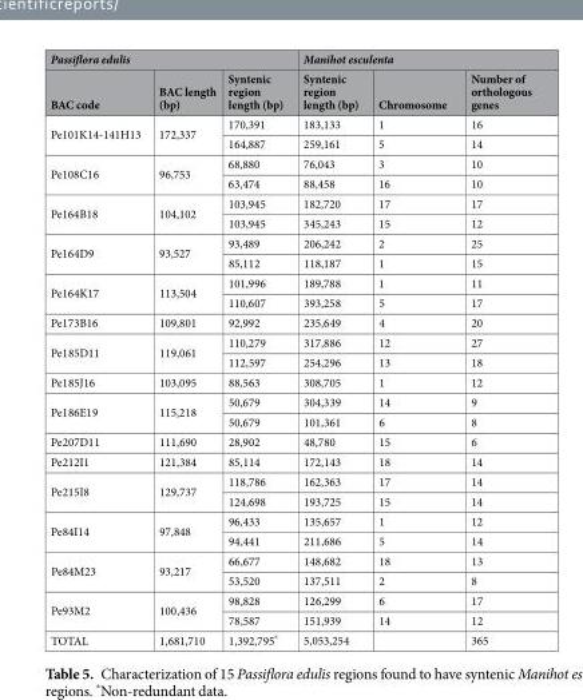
<table><thead><tr><td colspan="3">Passiflora edulis</td><td colspan="3">Manihot esculenta</td></tr><tr><td>BAC code</td><td>BAC length (bp)</td><td>Syntenic region length (bp)</td><td>Syntenic region length (bp)</td><td>Chromosome</td><td>Number of orthologous genes</td></tr></thead><tbody><tr><td rowspan="2">Pe101K14-141H13</td><td rowspan="2">172,337</td><td>170,391</td><td>183,133</td><td>1</td><td>16</td></tr><tr><td>164,887</td><td>259,161</td><td>5</td><td>14</td></tr><tr><td rowspan="2">Pe108C16</td><td rowspan="2">96,753</td><td>68,880</td><td>76,043</td><td>3</td><td>10</td></tr><tr><td>63,474</td><td>88,458</td><td>16</td><td>10</td></tr><tr><td rowspan="2">Pe164B18</td><td rowspan="2">104,102</td><td>103,945</td><td>182,720</td><td>17</td><td>17</td></tr><tr><td>103,945</td><td>345,243</td><td>15</td><td>12</td></tr><tr><td rowspan="2">Pe164D9</td><td rowspan="2">93,527</td><td>93,489</td><td>206,242</td><td>2</td><td>25</td></tr><tr><td>85,112</td><td>118,187</td><td>1</td><td>15</td></tr><tr><td rowspan="2">Pe164K17</td><td rowspan="2">113,504</td><td>101,996</td><td>189,788</td><td>1</td><td>11</td></tr><tr><td>110,607</td><td>393,258</td><td>5</td><td>17</td></tr><tr><td>Pe173B16</td><td>109,801</td><td>92,992</td><td>235,649</td><td>4</td><td>20</td></tr><tr><td rowspan="2">Pe185D11</td><td rowspan="2">119,061</td><td>110,279</td><td>317,886</td><td>12</td><td>27</td></tr><tr><td>112,597</td><td>254,296</td><td>13</td><td>18</td></tr><tr><td>Pe185J16</td><td>103,095</td><td>88,563</td><td>308,705</td><td>1</td><td>12</td></tr><tr><td rowspan="2">Pe186E19</td><td rowspan="2">115,218</td><td>50,679</td><td>304,339</td><td>14</td><td>9</td></tr><tr><td>50,679</td><td>101,361</td><td>6</td><td>8</td></tr><tr><td>Pe207D11</td><td>111,690</td><td>28,902</td><td>48,780</td><td>15</td><td>6</td></tr><tr><td>Pe212I1</td><td>121,384</td><td>85,114</td><td>172,143</td><td>18</td><td>14</td></tr><tr><td rowspan="2">Pe215I8</td><td rowspan="2">129,737</td><td>118,786</td><td>162,363</td><td>17</td><td>14</td></tr><tr><td>124,698</td><td>193,725</td><td>15</td><td>14</td></tr><tr><td rowspan="2">Pe84I14</td><td rowspan="2">97,848</td><td>96,433</td><td>135,657</td><td>1</td><td>12</td></tr><tr><td>94,441</td><td>211,686</td><td>5</td><td>14</td></tr><tr><td rowspan="2">Pe84M23</td><td rowspan="2">93,217</td><td>66,677</td><td>148,682</td><td>18</td><td>13</td></tr><tr><td>53,520</td><td>137,511</td><td>2</td><td>8</td></tr><tr><td rowspan="2">Pe93M2</td><td rowspan="2">100,436</td><td>98,828</td><td>126,299</td><td>6</td><td>17</td></tr><tr><td>78,587</td><td>151,939</td><td>14</td><td>12</td></tr><tr><td>TOTAL</td><td>1,681,710</td><td>1,392,795*</td><td>5,053,254</td><td></td><td>365</td></tr></tbody></table>